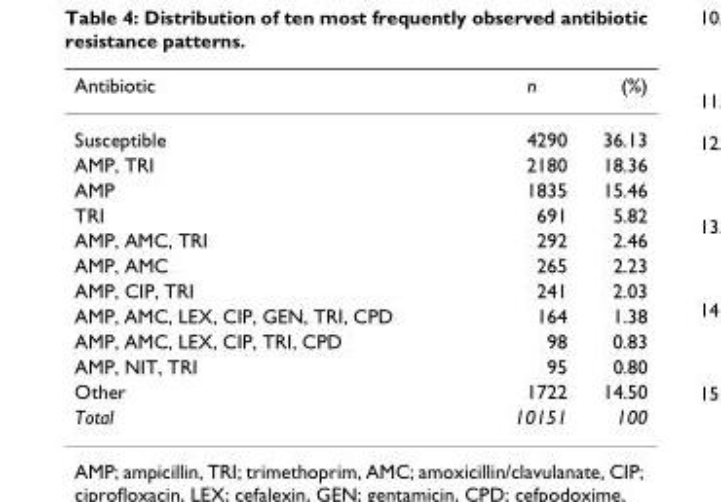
<table><thead><tr><td>Antibiotic</td><td>n</td><td>(%)</td></tr></thead><tbody><tr><td>Susceptible</td><td>4290</td><td>36.13</td></tr><tr><td>AMP, TRI</td><td>2180</td><td>18.36</td></tr><tr><td>AMP</td><td>1835</td><td>15.46</td></tr><tr><td>TRI</td><td>691</td><td>5.82</td></tr><tr><td>AMP, AMC, TRI</td><td>292</td><td>2.46</td></tr><tr><td>AMP, AMC</td><td>265</td><td>2.23</td></tr><tr><td>AMP, CIP, TRI</td><td>241</td><td>2.03</td></tr><tr><td>AMP, AMC, LEX, CIP, GEN, TRI, CPD</td><td>164</td><td>1.38</td></tr><tr><td>AMP, AMC, LEX, CIP, TRI, CPD</td><td>98</td><td>0.83</td></tr><tr><td>AMP, NIT, TRI</td><td>95</td><td>0.80</td></tr><tr><td>Other</td><td>1722</td><td>14.50</td></tr><tr><td>Total</td><td>10151</td><td>100</td></tr></tbody></table>